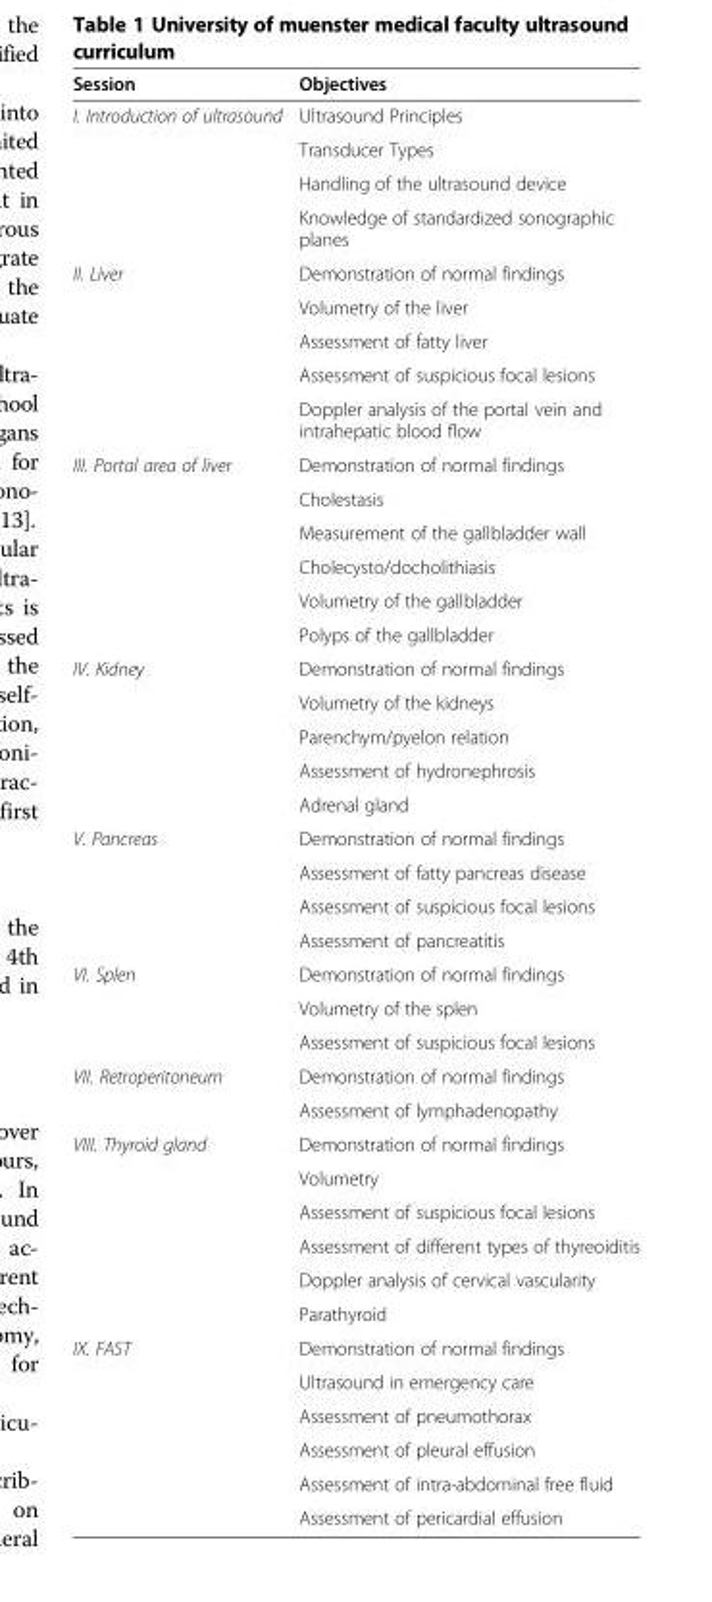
<table><thead><tr><td>Session</td><td>Objectives</td></tr></thead><tbody><tr><td rowspan="4">I. Introduction of ultrasound</td><td>Ultrasound Principles</td></tr><tr><td>Transducer Types</td></tr><tr><td>Handling of the ultrasound device</td></tr><tr><td>Knowledge of standardized sonographic planes</td></tr><tr><td rowspan="5">II. Liver</td><td>Demonstration of normal findings</td></tr><tr><td>Volumetry of the liver</td></tr><tr><td>Assessment of fatty liver</td></tr><tr><td>Assessment of suspicious focal lesions</td></tr><tr><td>Doppler analysis of the portal vein and intrahepatic blood flow</td></tr><tr><td rowspan="6">III. Portal area of liver</td><td>Demonstration of normal findings</td></tr><tr><td>Cholestasis</td></tr><tr><td>Measurement of the gallbladder wall</td></tr><tr><td>Cholecysto/docholithiasis</td></tr><tr><td>Volumetry of the gallbladder</td></tr><tr><td>Polyps of the gallbladder</td></tr><tr><td rowspan="5">IV. Kidney</td><td>Demonstration of normal findings</td></tr><tr><td>Volumetry of the kidneys</td></tr><tr><td>Parenchym/pyelon relation</td></tr><tr><td>Assessment of hydronephrosis</td></tr><tr><td>Adrenal gland</td></tr><tr><td rowspan="4">V. Pancreas</td><td>Demonstration of normal findings</td></tr><tr><td>Assessment of fatty pancreas disease</td></tr><tr><td>Assessment of suspicious focal lesions</td></tr><tr><td>Assessment of pancreatitis</td></tr><tr><td rowspan="3">VI. Splen</td><td>Demonstration of normal findings</td></tr><tr><td>Volumetry of the splen</td></tr><tr><td>Assessment of suspicious focal lesions</td></tr><tr><td rowspan="2">VII. Retroperitoneum</td><td>Demonstration of normal findings</td></tr><tr><td>Assessment of lymphadenopathy</td></tr><tr><td rowspan="6">VIII. Thyroid gland</td><td>Demonstration of normal findings</td></tr><tr><td>Volumetry</td></tr><tr><td>Assessment of suspicious focal lesions</td></tr><tr><td>Assessment of different types of thyreoiditis</td></tr><tr><td>Doppler analysis of cervical vascularity</td></tr><tr><td>Parathyroid</td></tr><tr><td rowspan="6">IX. FAST</td><td>Demonstration of normal findings</td></tr><tr><td>Ultrasound in emergency care</td></tr><tr><td>Assessment of pneumothorax</td></tr><tr><td>Assessment of pleural effusion</td></tr><tr><td>Assessment of intra-abdominal free fluid</td></tr><tr><td>Assessment of pericardial effusion</td></tr></tbody></table>